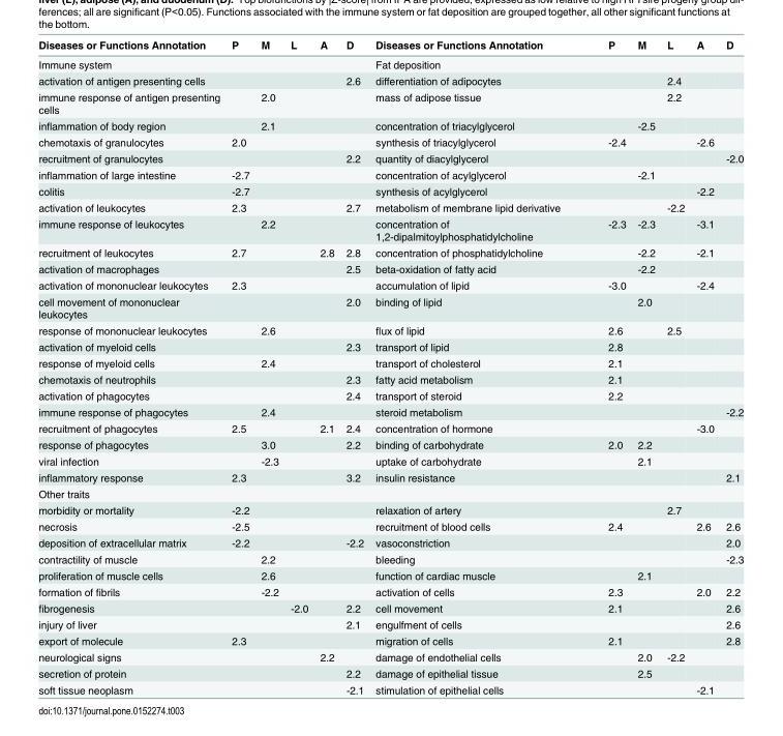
<table><thead><tr><td>Diseases or Functions Annotation</td><td>P</td><td>M</td><td>L</td><td>A</td><td>D</td><td>Diseases or Functions Annotation</td><td>P</td><td>M</td><td>L</td><td>A</td><td>D</td></tr></thead><tbody><tr><td colspan="6">Immune system</td><td colspan="6">Fat deposition</td></tr><tr><td>activation of antigen presenting cells</td><td></td><td></td><td></td><td></td><td>2.6</td><td>differentiation of adipocytes</td><td></td><td></td><td>2.4</td><td></td><td></td></tr><tr><td>immune response of antigen presenting cells</td><td></td><td>2.0</td><td></td><td></td><td></td><td>mass of adipose tissue</td><td></td><td></td><td>2.2</td><td></td><td></td></tr><tr><td>inflammation of body region</td><td></td><td>2.1</td><td></td><td></td><td></td><td>concentration of triacylglycerol</td><td></td><td>-2.5</td><td></td><td></td><td></td></tr><tr><td>chemotaxis of granulocytes</td><td>2.0</td><td></td><td></td><td></td><td></td><td>synthesis of triacylglycerol</td><td>-2.4</td><td></td><td></td><td>-2.6</td><td></td></tr><tr><td>recruitment of granulocytes</td><td></td><td></td><td></td><td></td><td>2.2</td><td>quantity of diacylglycerol</td><td></td><td></td><td></td><td></td><td>-2.0</td></tr><tr><td>inflammation of large intestine</td><td>-2.7</td><td></td><td></td><td></td><td></td><td>concentration of acylglycerol</td><td></td><td>-2.1</td><td></td><td></td><td></td></tr><tr><td>colitis</td><td>-2.7</td><td></td><td></td><td></td><td></td><td>synthesis of acylglycerol</td><td></td><td></td><td></td><td>-2.2</td><td></td></tr><tr><td>activation of leukocytes</td><td>2.3</td><td></td><td></td><td></td><td>2.7</td><td>metabolism of membrane lipid derivative</td><td></td><td></td><td>-2.2</td><td></td><td></td></tr><tr><td>immune response of leukocytes</td><td></td><td>2.2</td><td></td><td></td><td></td><td>concentration of 1,2-dipalmitoylphosphatidylcholine</td><td>-2.3</td><td>-2.3</td><td></td><td>-3.1</td><td></td></tr><tr><td>recruitment of leukocytes</td><td>2.7</td><td></td><td></td><td>2.8</td><td>2.8</td><td>concentration of phosphatidylcholine</td><td></td><td>-2.2</td><td></td><td>-2.1</td><td></td></tr><tr><td>activation of macrophages</td><td></td><td></td><td></td><td></td><td>2.5</td><td>beta-oxidation of fatty acid</td><td></td><td>-2.2</td><td></td><td></td><td></td></tr><tr><td>activation of mononuclear leukocytes</td><td>2.3</td><td></td><td></td><td></td><td></td><td>accumulation of lipid</td><td>-3.0</td><td></td><td></td><td>-2.4</td><td></td></tr><tr><td>cell movement of mononuclear leukocytes</td><td></td><td></td><td></td><td></td><td>2.0</td><td>binding of lipid</td><td></td><td>2.0</td><td></td><td></td><td></td></tr><tr><td>response of mononuclear leukocytes</td><td></td><td>2.6</td><td></td><td></td><td></td><td>flux of lipid</td><td>2.6</td><td></td><td>2.5</td><td></td><td></td></tr><tr><td>activation of myeloid cells</td><td></td><td></td><td></td><td></td><td>2.3</td><td>transport of lipid</td><td>2.8</td><td></td><td></td><td></td><td></td></tr><tr><td>response of myeloid cells</td><td></td><td>2.4</td><td></td><td></td><td></td><td>transport of cholesterol</td><td>2.1</td><td></td><td></td><td></td><td></td></tr><tr><td>chemotaxis of neutrophils</td><td></td><td></td><td></td><td></td><td>2.3</td><td>fatty acid metabolism</td><td>2.1</td><td></td><td></td><td></td><td></td></tr><tr><td>activation of phagocytes</td><td></td><td></td><td></td><td></td><td>2.4</td><td>transport of steroid</td><td>2.2</td><td></td><td></td><td></td><td></td></tr><tr><td>immune response of phagocytes</td><td></td><td>2.4</td><td></td><td></td><td></td><td>steroid metabolism</td><td></td><td></td><td></td><td></td><td>-2.2</td></tr><tr><td>recruitment of phagocytes</td><td>2.5</td><td></td><td></td><td>2.1</td><td>2.4</td><td>concentration of hormone</td><td></td><td></td><td></td><td>-3.0</td><td></td></tr><tr><td>response of phagocytes</td><td></td><td>3.0</td><td></td><td></td><td>2.2</td><td>binding of carbohydrate</td><td>2.0</td><td>2.2</td><td></td><td></td><td></td></tr><tr><td>viral infection</td><td></td><td>-2.3</td><td></td><td></td><td></td><td>uptake of carbohydrate</td><td></td><td>2.1</td><td></td><td></td><td></td></tr><tr><td>inflammatory response</td><td>2.3</td><td></td><td></td><td></td><td>3.2</td><td>insulin resistance</td><td></td><td></td><td></td><td></td><td>2.1</td></tr><tr><td colspan="12">Other traits</td></tr><tr><td>morbidity or mortality</td><td>-2.2</td><td></td><td></td><td></td><td></td><td>relaxation of artery</td><td></td><td></td><td>2.7</td><td></td><td></td></tr><tr><td>necrosis</td><td>-2.5</td><td></td><td></td><td></td><td></td><td>recruitment of blood cells</td><td>2.4</td><td></td><td></td><td>2.6</td><td>2.6</td></tr><tr><td>deposition of extracellular matrix</td><td>-2.2</td><td></td><td></td><td></td><td>-2.2</td><td>vasoconstriction</td><td></td><td></td><td></td><td></td><td>2.0</td></tr><tr><td>contractility of muscle</td><td></td><td>2.2</td><td></td><td></td><td></td><td>bleeding</td><td></td><td></td><td></td><td></td><td>-2.3</td></tr><tr><td>proliferation of muscle cells</td><td></td><td>2.6</td><td></td><td></td><td></td><td>function of cardiac muscle</td><td></td><td>2.1</td><td></td><td></td><td></td></tr><tr><td>formation of fibrils</td><td></td><td>-2.2</td><td></td><td></td><td></td><td>activation of cells</td><td>2.3</td><td></td><td></td><td>2.0</td><td>2.2</td></tr><tr><td>fibrogenesis</td><td></td><td></td><td>-2.0</td><td></td><td>2.2</td><td>cell movement</td><td>2.1</td><td></td><td></td><td></td><td>2.6</td></tr><tr><td>injury of liver</td><td></td><td></td><td></td><td></td><td>2.1</td><td>engulfment of cells</td><td></td><td></td><td></td><td></td><td>2.6</td></tr><tr><td>export of molecule</td><td>2.3</td><td></td><td></td><td></td><td></td><td>migration of cells</td><td>2.1</td><td></td><td></td><td></td><td>2.8</td></tr><tr><td>neurological signs</td><td></td><td></td><td></td><td>2.2</td><td></td><td>damage of endothelial cells</td><td></td><td>2.0</td><td>-2.2</td><td></td><td></td></tr><tr><td>secretion of protein</td><td></td><td></td><td></td><td></td><td>2.2</td><td>damage of epithelial tissue</td><td></td><td>2.5</td><td></td><td></td><td></td></tr><tr><td>soft tissue neoplasm</td><td></td><td></td><td></td><td></td><td>-2.1</td><td>stimulation of epithelial cells</td><td></td><td></td><td></td><td>-2.1</td><td></td></tr></tbody></table>